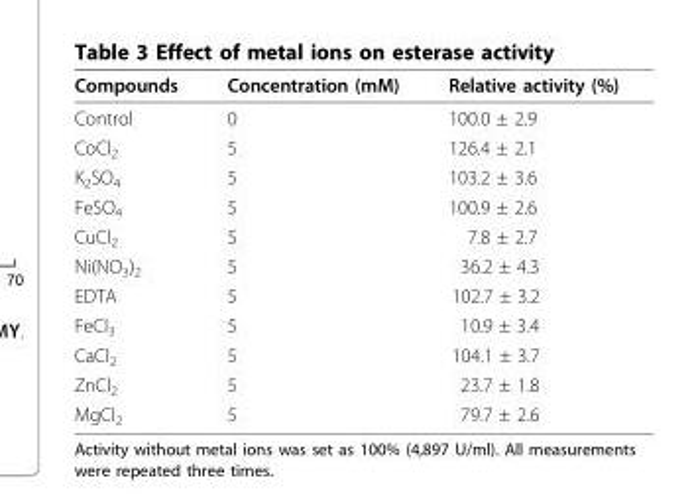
<table><thead><tr><td>Compounds</td><td>Concentration (mM)</td><td>Relative activity (%)</td></tr></thead><tbody><tr><td>Control</td><td>0</td><td>100.0 ± 2.9</td></tr><tr><td>CoCl<sub>2</sub></td><td>5</td><td>126.4 ± 2.1</td></tr><tr><td>K<sub>2</sub>SO<sub>4</sub></td><td>5</td><td>103.2 ± 3.6</td></tr><tr><td>FeSO<sub>4</sub></td><td>5</td><td>100.9 ± 2.6</td></tr><tr><td>CuCl<sub>2</sub></td><td>5</td><td>7.8 ± 2.7</td></tr><tr><td>Ni(NO<sub>3</sub>)<sub>2</sub></td><td>5</td><td>36.2 ± 4.3</td></tr><tr><td>EDTA</td><td>5</td><td>102.7 ± 3.2</td></tr><tr><td>FeCl<sub>3</sub></td><td>5</td><td>10.9 ± 3.4</td></tr><tr><td>CaCl<sub>2</sub></td><td>5</td><td>104.1 ± 3.7</td></tr><tr><td>ZnCl<sub>2</sub></td><td>5</td><td>23.7 ± 1.8</td></tr><tr><td>MgCl<sub>2</sub></td><td>5</td><td>79.7 ± 2.6</td></tr></tbody></table>